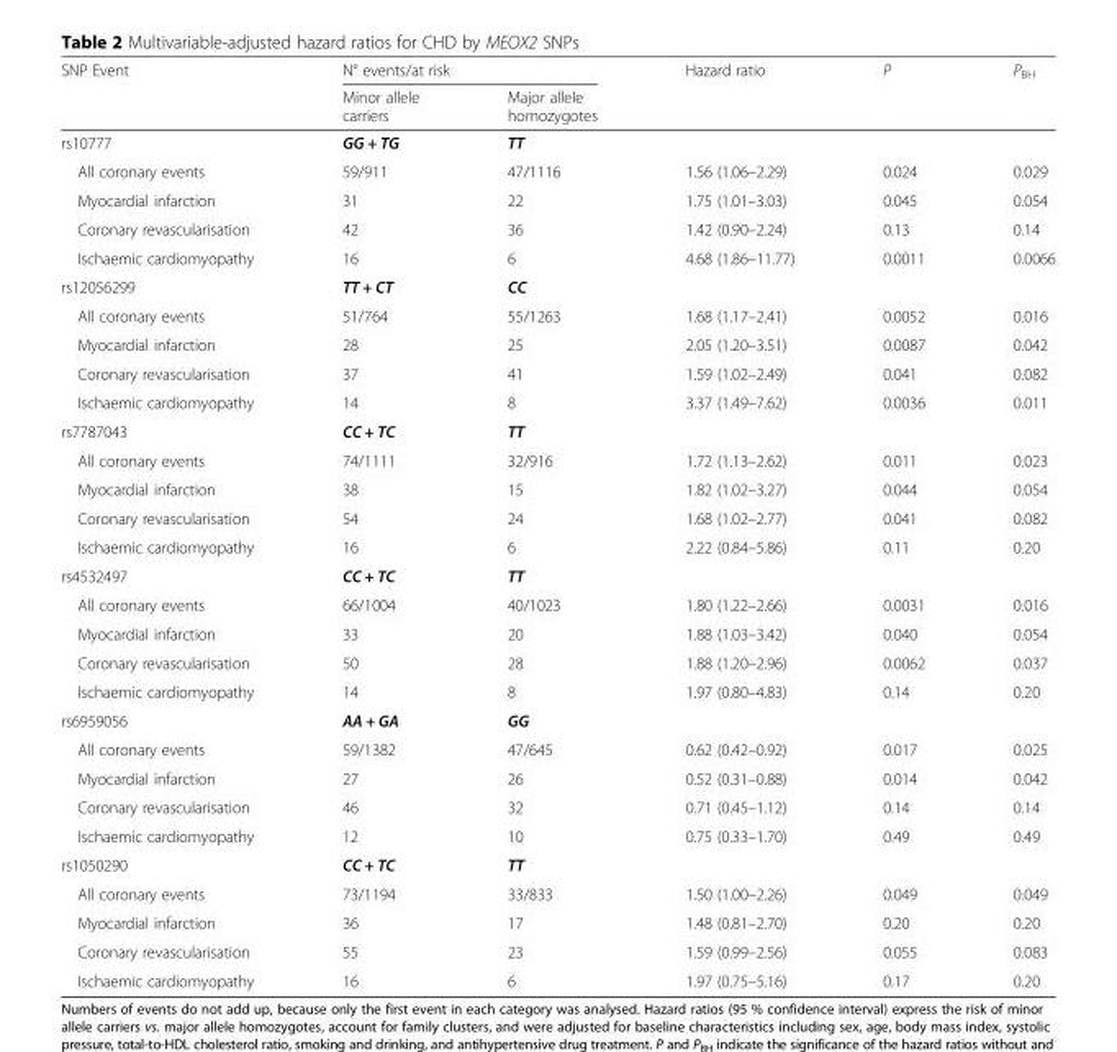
<table><thead><tr><td rowspan="2">SNP Event</td><td colspan="2">N° events/at risk</td><td rowspan="2">Hazard ratio</td><td rowspan="2">P</td><td rowspan="2">P<sub>BH</sub></td></tr><tr><td>Minor allele carriers</td><td>Major allele homozygotes</td></tr></thead><tbody><tr><td>rs10777</td><td>GG + TG</td><td>TT</td><td></td><td></td><td></td></tr><tr><td>All coronary events</td><td>59/911</td><td>47/1116</td><td>1.56 (1.06–2.29)</td><td>0.024</td><td>0.029</td></tr><tr><td>Myocardial infarction</td><td>31</td><td>22</td><td>1.75 (1.01–3.03)</td><td>0.045</td><td>0.054</td></tr><tr><td>Coronary revascularisation</td><td>42</td><td>36</td><td>1.42 (0.90–2.24)</td><td>0.13</td><td>0.14</td></tr><tr><td>Ischaemic cardiomyopathy</td><td>16</td><td>6</td><td>4.68 (1.86–11.77)</td><td>0.0011</td><td>0.0066</td></tr><tr><td>rs12056299</td><td>TT + CT</td><td>CC</td><td></td><td></td><td></td></tr><tr><td>All coronary events</td><td>51/764</td><td>55/1263</td><td>1.68 (1.17–2.41)</td><td>0.0052</td><td>0.016</td></tr><tr><td>Myocardial infarction</td><td>28</td><td>25</td><td>2.05 (1.20–3.51)</td><td>0.0087</td><td>0.042</td></tr><tr><td>Coronary revascularisation</td><td>37</td><td>41</td><td>1.59 (1.02–2.49)</td><td>0.041</td><td>0.082</td></tr><tr><td>Ischaemic cardiomyopathy</td><td>14</td><td>8</td><td>3.37 (1.49–7.62)</td><td>0.0036</td><td>0.011</td></tr><tr><td>rs7787043</td><td>CC + TC</td><td>TT</td><td></td><td></td><td></td></tr><tr><td>All coronary events</td><td>74/1111</td><td>32/916</td><td>1.72 (1.13–2.62)</td><td>0.011</td><td>0.023</td></tr><tr><td>Myocardial infarction</td><td>38</td><td>15</td><td>1.82 (1.02–3.27)</td><td>0.044</td><td>0.054</td></tr><tr><td>Coronary revascularisation</td><td>54</td><td>24</td><td>1.68 (1.02–2.77)</td><td>0.041</td><td>0.082</td></tr><tr><td>Ischaemic cardiomyopathy</td><td>16</td><td>6</td><td>2.22 (0.84–5.86)</td><td>0.11</td><td>0.20</td></tr><tr><td>rs4532497</td><td>CC + TC</td><td>TT</td><td></td><td></td><td></td></tr><tr><td>All coronary events</td><td>66/1004</td><td>40/1023</td><td>1.80 (1.22–2.66)</td><td>0.0031</td><td>0.016</td></tr><tr><td>Myocardial infarction</td><td>33</td><td>20</td><td>1.88 (1.03–3.42)</td><td>0.040</td><td>0.054</td></tr><tr><td>Coronary revascularisation</td><td>50</td><td>28</td><td>1.88 (1.20–2.96)</td><td>0.0062</td><td>0.037</td></tr><tr><td>Ischaemic cardiomyopathy</td><td>14</td><td>8</td><td>1.97 (0.80–4.83)</td><td>0.14</td><td>0.20</td></tr><tr><td>rs6959056</td><td>AA + GA</td><td>GG</td><td></td><td></td><td></td></tr><tr><td>All coronary events</td><td>59/1382</td><td>47/645</td><td>0.62 (0.42–0.92)</td><td>0.017</td><td>0.025</td></tr><tr><td>Myocardial infarction</td><td>27</td><td>26</td><td>0.52 (0.31–0.88)</td><td>0.014</td><td>0.042</td></tr><tr><td>Coronary revascularisation</td><td>46</td><td>32</td><td>0.71 (0.45–1.12)</td><td>0.14</td><td>0.14</td></tr><tr><td>Ischaemic cardiomyopathy</td><td>12</td><td>10</td><td>0.75 (0.33–1.70)</td><td>0.49</td><td>0.49</td></tr><tr><td>rs1050290</td><td>CC + TC</td><td>TT</td><td></td><td></td><td></td></tr><tr><td>All coronary events</td><td>73/1194</td><td>33/833</td><td>1.50 (1.00–2.26)</td><td>0.049</td><td>0.049</td></tr><tr><td>Myocardial infarction</td><td>36</td><td>17</td><td>1.48 (0.81–2.70)</td><td>0.20</td><td>0.20</td></tr><tr><td>Coronary revascularisation</td><td>55</td><td>23</td><td>1.59 (0.99–2.56)</td><td>0.055</td><td>0.083</td></tr><tr><td>Ischaemic cardiomyopathy</td><td>16</td><td>6</td><td>1.97 (0.75–5.16)</td><td>0.17</td><td>0.20</td></tr></tbody></table>